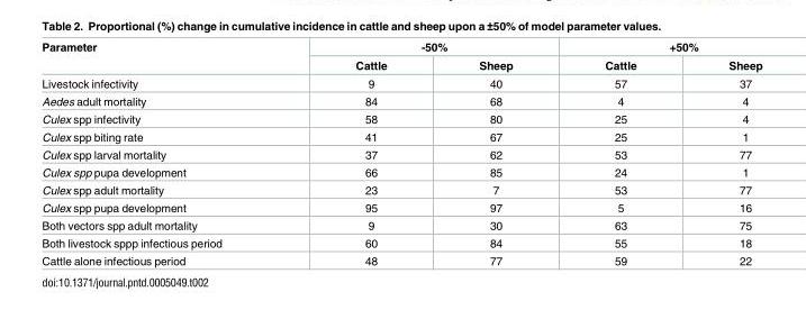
<table><thead><tr><td rowspan="2">Parameter</td><td colspan="2">-50%</td><td colspan="2">+50%</td></tr><tr><td>Cattle</td><td>Sheep</td><td>Cattle</td><td>Sheep</td></tr></thead><tbody><tr><td>Livestock infectivity</td><td>9</td><td>40</td><td>57</td><td>37</td></tr><tr><td>Aedes adult mortality</td><td>84</td><td>68</td><td>4</td><td>4</td></tr><tr><td>Culex spp infectivity</td><td>58</td><td>80</td><td>25</td><td>4</td></tr><tr><td>Culex spp biting rate</td><td>41</td><td>67</td><td>25</td><td>1</td></tr><tr><td>Culex spp larval mortality</td><td>37</td><td>62</td><td>53</td><td>77</td></tr><tr><td>Culex spp pupa development</td><td>66</td><td>85</td><td>24</td><td>1</td></tr><tr><td>Culex spp adult mortality</td><td>23</td><td>7</td><td>53</td><td>77</td></tr><tr><td>Culex spp pupa development</td><td>95</td><td>97</td><td>5</td><td>16</td></tr><tr><td>Both vectors spp adult mortality</td><td>9</td><td>30</td><td>63</td><td>75</td></tr><tr><td>Both livestock sppp infectious period</td><td>60</td><td>84</td><td>55</td><td>18</td></tr><tr><td>Cattle alone infectious period</td><td>48</td><td>77</td><td>59</td><td>22</td></tr></tbody></table>